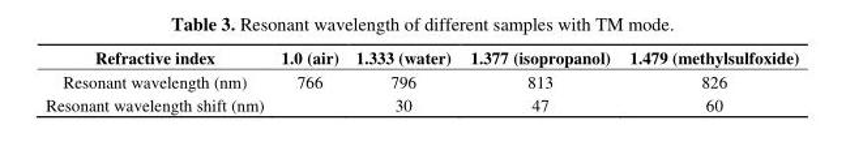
<table><thead><tr><td>Refractive index</td><td>1.0 (air)</td><td>1.333 (water)</td><td>1.377 (isopropanol)</td><td>1.479 (methylsulfoxide)</td></tr></thead><tbody><tr><td>Resonant wavelength (nm)</td><td>766</td><td>796</td><td>813</td><td>826</td></tr><tr><td>Resonant wavelength shift (nm)</td><td></td><td>30</td><td>47</td><td>60</td></tr></tbody></table>